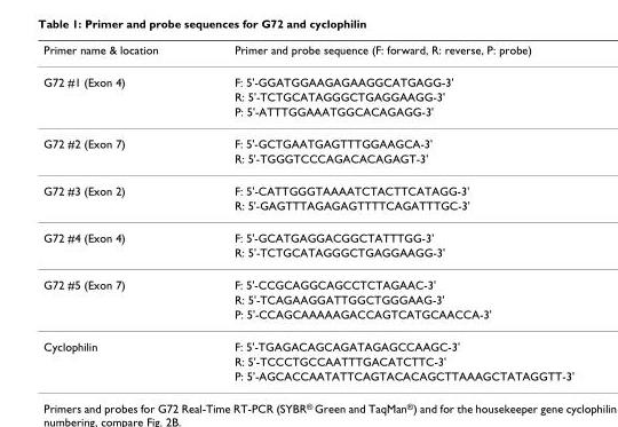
<table><thead><tr><td>Primer name &amp; location</td><td>Primer and probe sequence (F: forward, R: reverse, P: probe)</td></tr></thead><tbody><tr><td rowspan="3">G72 #1 (Exon 4)</td><td>F: 5&#x27;-GGATGGAAGAGAAGGCATGAGG-3&#x27;</td></tr><tr><td>R: 5&#x27;-TCTGCATAGGGCTGAGGAAGG-3&#x27;</td></tr><tr><td>P: 5&#x27;-ATTTGGAAATGGCACAGAGG-3&#x27;</td></tr><tr><td rowspan="2">G72 #2 (Exon 7)</td><td>F: 5&#x27;-GCTGAATGAGTTTGGAAGCA-3&#x27;</td></tr><tr><td>R: 5&#x27;-TGGGTCCCAGACACAGAGT-3&#x27;</td></tr><tr><td rowspan="2">G72 #3 (Exon 2)</td><td>F: 5&#x27;-CATTGGGTAAAATCTACTTCATAGG-3&#x27;</td></tr><tr><td>R: 5&#x27;-GAGTTTAGAGAGTTTTCAGATTTGC-3&#x27;</td></tr><tr><td rowspan="2">G72 #4 (Exon 4)</td><td>F: 5&#x27;-GCATGAGGACGGCTATTTGG-3&#x27;</td></tr><tr><td>R: 5&#x27;-TCTGCATAGGGCTGAGGAAGG-3&#x27;</td></tr><tr><td rowspan="3">G72 #5 (Exon 7)</td><td>F: 5&#x27;-CCGCAGGCAGCCTCTAGAAC-3&#x27;</td></tr><tr><td>R: 5&#x27;-TCAGAAGGATTGGCTGGGAAG-3&#x27;</td></tr><tr><td>P: 5&#x27;-CCAGCAAAAAGACCAGTCATGCAACCA-3&#x27;</td></tr><tr><td rowspan="3">Cyclophilin</td><td>F: 5&#x27;-TGAGACAGCAGATAGAGCCAAGC-3&#x27;</td></tr><tr><td>R: 5&#x27;-TCCCTGCCAATTTGACATCTTC-3&#x27;</td></tr><tr><td>P: 5&#x27;-AGCACCAATATTCAGTACACAGCTTAAAGCTATAGGTT-3&#x27;</td></tr></tbody></table>